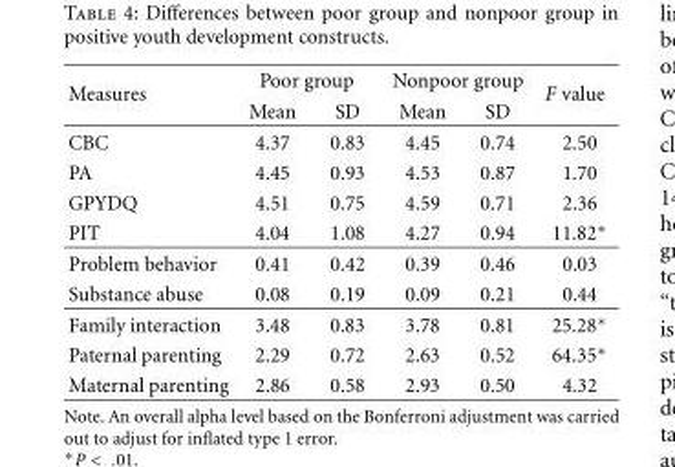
<table><thead><tr><td rowspan="2">Measures</td><td colspan="2">Poor group</td><td colspan="2">Nonpoor group</td><td rowspan="2">F value</td></tr><tr><td>Mean</td><td>SD</td><td>Mean</td><td>SD</td></tr></thead><tbody><tr><td>CBC</td><td>4.37</td><td>0.83</td><td>4.45</td><td>0.74</td><td>2.50</td></tr><tr><td>PA</td><td>4.45</td><td>0.93</td><td>4.53</td><td>0.87</td><td>1.70</td></tr><tr><td>GPYDQ</td><td>4.51</td><td>0.75</td><td>4.59</td><td>0.71</td><td>2.36</td></tr><tr><td>PIT</td><td>4.04</td><td>1.08</td><td>4.27</td><td>0.94</td><td>11.82∗</td></tr><tr><td>Problem behavior</td><td>0.41</td><td>0.42</td><td>0.39</td><td>0.46</td><td>0.03</td></tr><tr><td>Substance abuse</td><td>0.08</td><td>0.19</td><td>0.09</td><td>0.21</td><td>0.44</td></tr><tr><td>Family interaction</td><td>3.48</td><td>0.83</td><td>3.78</td><td>0.81</td><td>25.28∗</td></tr><tr><td>Paternal parenting</td><td>2.29</td><td>0.72</td><td>2.63</td><td>0.52</td><td>64.35∗</td></tr><tr><td>Maternal parenting</td><td>2.86</td><td>0.58</td><td>2.93</td><td>0.50</td><td>4.32</td></tr></tbody></table>